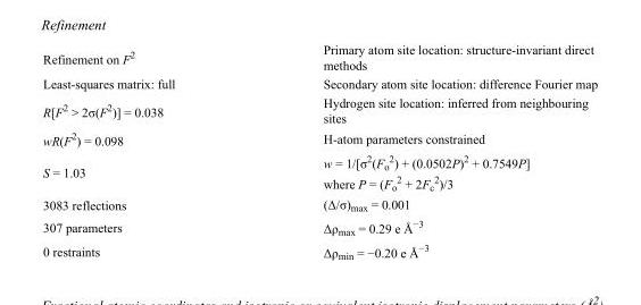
<table><tbody><tr><td>Refinement on F<sup>2</sup></td><td>Primary atom site location: structure-invariant direct methods</td></tr><tr><td>Least-squares matrix: full</td><td>Secondary atom site location: difference Fourier map</td></tr><tr><td>R[F<sup>2</sup> &gt; 2σ(F<sup>2</sup>)] = 0.038</td><td>Hydrogen site location: inferred from neighbouring sites</td></tr><tr><td>wR(F<sup>2</sup>) = 0.098</td><td>H-atom parameters constrained</td></tr><tr><td>S = 1.03</td><td>w = 1/[σ<sup>2</sup>(F<sub>o</sub> <sup>2</sup>) + (0.0502P)<sup>2</sup> + 0.7549P] where P = (F<sub>o</sub> <sup>2</sup> + 2F<sub>c</sub> <sup>2</sup>)/3</td></tr><tr><td>3083 reflections</td><td>(Δ/σ)<sub>max</sub> = 0.001</td></tr><tr><td>307 parameters</td><td>Δρ<sub>max</sub> = 0.29 e Å<sup>−3</sup></td></tr><tr><td>0 restraints</td><td>Δρ<sub>min</sub> = −0.20 e Å<sup>−3</sup></td></tr></tbody></table>